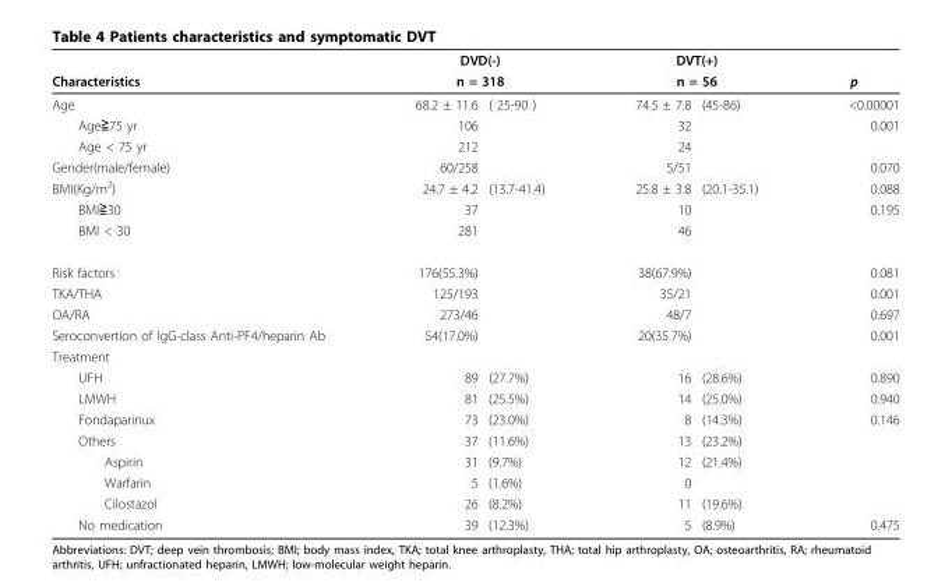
<table><thead><tr><td rowspan="3">Characteristics Age</td><td rowspan="2" colspan="2">DVD(-) n = 318</td><td rowspan="2" colspan="2">DVT(+) n = 56</td><td rowspan="3">p &lt;0.00001</td></tr><tr></tr><tr><td>68.2 ± 11.6</td><td>( 25-90 )</td><td>74.5 ± 7.8</td><td>(45-86)</td></tr></thead><tbody><tr><td>Age≧75 yr</td><td>106</td><td></td><td>32</td><td></td><td>0.001</td></tr><tr><td>Age &lt; 75 yr</td><td>212</td><td></td><td>24</td><td></td><td></td></tr><tr><td>Gender(male/female)</td><td>60/258</td><td></td><td>5/51</td><td></td><td>0.070</td></tr><tr><td>BMI(Kg/m<sup>2</sup>)</td><td>24.7 ± 4.2</td><td>(13.7-41.4)</td><td>25.8 ± 3.8</td><td>(20.1-35.1)</td><td>0.088</td></tr><tr><td>BMI≧30</td><td>37</td><td></td><td>10</td><td></td><td>0.195</td></tr><tr><td>BMI &lt; 30</td><td>281</td><td></td><td>46</td><td></td><td></td></tr><tr><td>Risk factors</td><td>176(55.3%)</td><td></td><td>38(67.9%)</td><td></td><td>0.081</td></tr><tr><td>TKA/THA</td><td>125/193</td><td></td><td>35/21</td><td></td><td>0.001</td></tr><tr><td>OA/RA</td><td>273/46</td><td></td><td>48/7</td><td></td><td>0.697</td></tr><tr><td>Seroconvertion of IgG-class Anti-PF4/heparin Ab</td><td>54(17.0%)</td><td></td><td>20(35.7%)</td><td></td><td>0.001</td></tr><tr><td colspan="6">Treatment</td></tr><tr><td>UFH</td><td>89</td><td>(27.7%)</td><td>16</td><td>(28.6%)</td><td>0.890</td></tr><tr><td>LMWH</td><td>81</td><td>(25.5%)</td><td>14</td><td>(25.0%)</td><td>0.940</td></tr><tr><td>Fondaparinux</td><td>73</td><td>(23.0%)</td><td>8</td><td>(14.3%)</td><td>0.146</td></tr><tr><td>Others</td><td>37</td><td>(11.6%)</td><td>13</td><td>(23.2%)</td><td></td></tr><tr><td>Aspirin</td><td>31</td><td>(9.7%)</td><td>12</td><td>(21.4%)</td><td></td></tr><tr><td>Warfarin</td><td>5</td><td>(1.6%)</td><td>0</td><td></td><td></td></tr><tr><td>Cilostazol</td><td>26</td><td>(8.2%)</td><td>11</td><td>(19.6%)</td><td></td></tr><tr><td>No medication</td><td>39</td><td>(12.3%)</td><td>5</td><td>(8.9%)</td><td>0.475</td></tr></tbody></table>